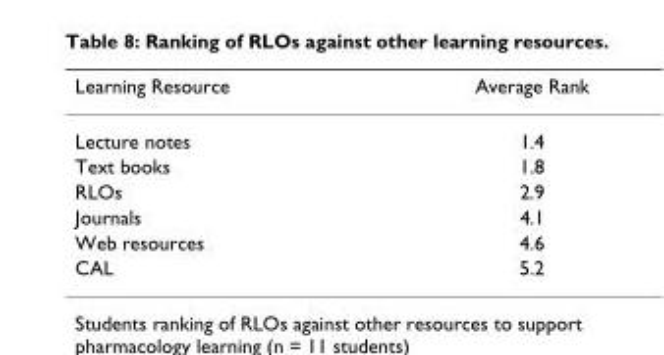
<table><thead><tr><td>Learning Resource</td><td>Average Rank</td></tr></thead><tbody><tr><td>Lecture notes</td><td>1.4</td></tr><tr><td>Text books</td><td>1.8</td></tr><tr><td>RLOs</td><td>2.9</td></tr><tr><td>Journals</td><td>4.1</td></tr><tr><td>Web resources</td><td>4.6</td></tr><tr><td>CAL</td><td>5.2</td></tr></tbody></table>